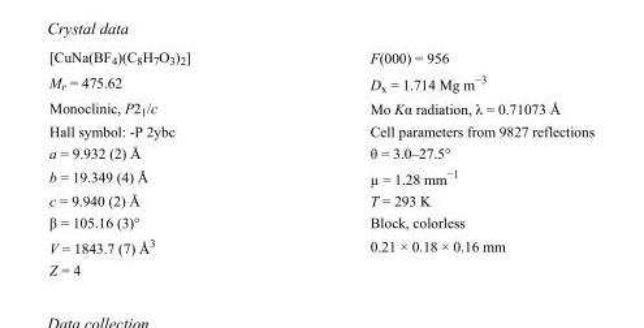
<table><tbody><tr><td>[CuNa(BF<sub>4</sub>)(C<sub>8</sub>H<sub>7</sub>O<sub>3</sub>)<sub>2</sub>]</td><td>F(000) = 956</td></tr><tr><td>M<sub>r</sub> = 475.62</td><td>D<sub>x</sub> = 1.714 Mg m<sup>−3</sup></td></tr><tr><td>Monoclinic, P2<sub>1</sub>/c</td><td>Mo Kα radiation, λ = 0.71073 Å</td></tr><tr><td>Hall symbol: -P 2ybc</td><td>Cell parameters from 9827 reflections</td></tr><tr><td>a = 9.932 (2) Å</td><td>θ = 3.0–27.5°</td></tr><tr><td>b = 19.349 (4) Å</td><td>µ = 1.28 mm<sup>−1</sup></td></tr><tr><td>c = 9.940 (2) Å</td><td>T = 293 K</td></tr><tr><td>β = 105.16 (3)°</td><td>Block, colorless</td></tr><tr><td>V = 1843.7 (7) Å<sup>3</sup></td><td>0.21 × 0.18 × 0.16 mm</td></tr><tr><td>Z = 4</td><td></td></tr></tbody></table>